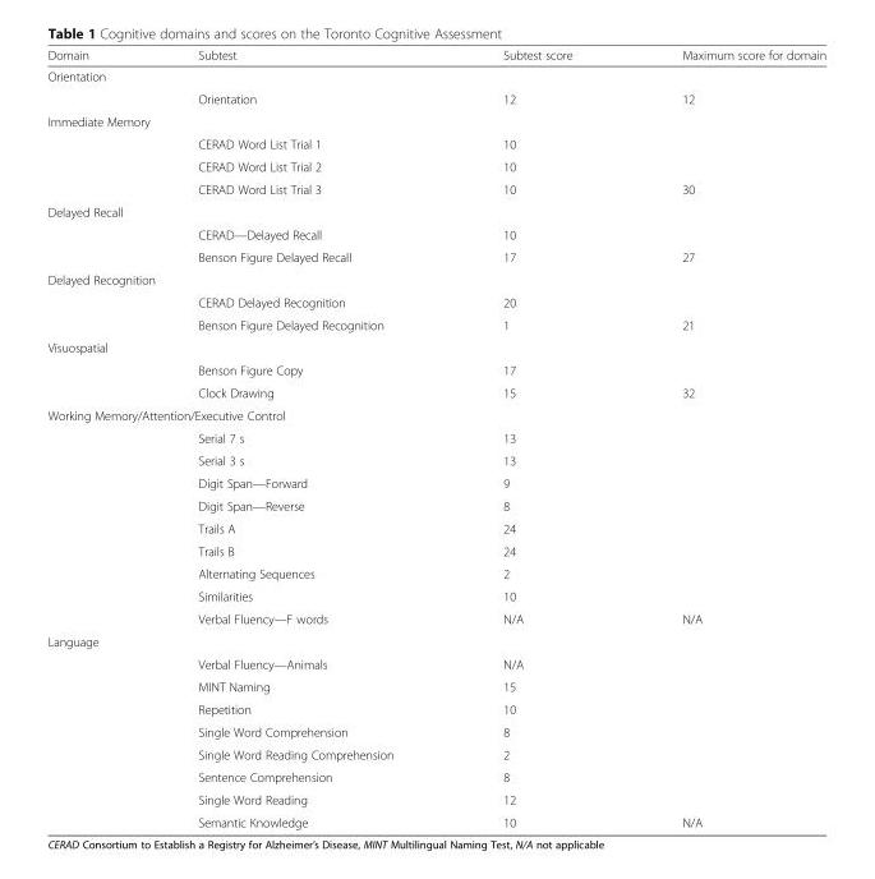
<table><thead><tr><td>Domain</td><td>Subtest</td><td>Subtest score</td><td>Maximum score for domain</td></tr></thead><tbody><tr><td colspan="4">Orientation</td></tr><tr><td></td><td>Orientation</td><td>12</td><td>12</td></tr><tr><td colspan="4">Immediate Memory</td></tr><tr><td rowspan="3"></td><td>CERAD Word List Trial 1</td><td>10</td><td></td></tr><tr><td>CERAD Word List Trial 2</td><td>10</td><td></td></tr><tr><td>CERAD Word List Trial 3</td><td>10</td><td>30</td></tr><tr><td colspan="4">Delayed Recall</td></tr><tr><td rowspan="2"></td><td>CERAD—Delayed Recall</td><td>10</td><td></td></tr><tr><td>Benson Figure Delayed Recall</td><td>17</td><td>27</td></tr><tr><td colspan="4">Delayed Recognition</td></tr><tr><td rowspan="2"></td><td>CERAD Delayed Recognition</td><td>20</td><td></td></tr><tr><td>Benson Figure Delayed Recognition</td><td>1</td><td>21</td></tr><tr><td colspan="4">Visuospatial</td></tr><tr><td rowspan="2"></td><td>Benson Figure Copy</td><td>17</td><td></td></tr><tr><td>Clock Drawing</td><td>15</td><td>32</td></tr><tr><td colspan="4">Working Memory/Attention/Executive Control</td></tr><tr><td rowspan="9"></td><td>Serial 7 s</td><td>13</td><td rowspan="8"></td></tr><tr><td>Serial 3 s</td><td>13</td></tr><tr><td>Digit Span—Forward</td><td>9</td></tr><tr><td>Digit Span—Reverse</td><td>8</td></tr><tr><td>Trails A</td><td>24</td></tr><tr><td>Trails B</td><td>24</td></tr><tr><td>Alternating Sequences</td><td>2</td></tr><tr><td>Similarities</td><td>10</td></tr><tr><td>Verbal Fluency—F words</td><td>N/A</td><td>N/A</td></tr><tr><td colspan="4">Language</td></tr><tr><td rowspan="8"></td><td>Verbal Fluency—Animals</td><td>N/A</td><td rowspan="7"></td></tr><tr><td>MINT Naming</td><td>15</td></tr><tr><td>Repetition</td><td>10</td></tr><tr><td>Single Word Comprehension</td><td>8</td></tr><tr><td>Single Word Reading Comprehension</td><td>2</td></tr><tr><td>Sentence Comprehension</td><td>8</td></tr><tr><td>Single Word Reading</td><td>12</td></tr><tr><td>Semantic Knowledge</td><td>10</td><td>N/A</td></tr></tbody></table>